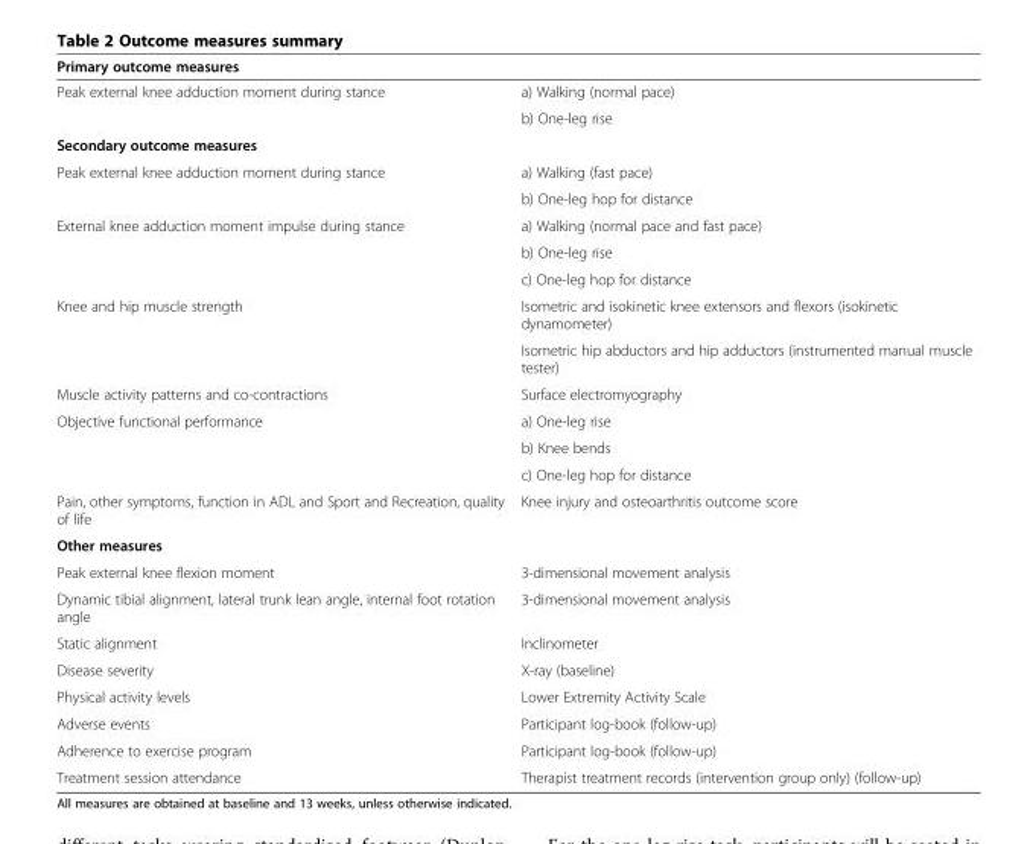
<table><thead><tr><td>Primary outcome measures</td><td></td></tr></thead><tbody><tr><td rowspan="2">Peak external knee adduction moment during stance</td><td>a) Walking (normal pace)</td></tr><tr><td>b) One-leg rise</td></tr><tr><td colspan="2">Secondary outcome measures</td></tr><tr><td rowspan="2">Peak external knee adduction moment during stance</td><td>a) Walking (fast pace)</td></tr><tr><td>b) One-leg hop for distance</td></tr><tr><td rowspan="3">External knee adduction moment impulse during stance</td><td>a) Walking (normal pace and fast pace)</td></tr><tr><td>b) One-leg rise</td></tr><tr><td>c) One-leg hop for distance</td></tr><tr><td rowspan="2">Knee and hip muscle strength</td><td>Isometric and isokinetic knee extensors and flexors (isokinetic dynamometer)</td></tr><tr><td>Isometric hip abductors and hip adductors (instrumented manual muscle tester)</td></tr><tr><td>Muscle activity patterns and co-contractions</td><td>Surface electromyography</td></tr><tr><td rowspan="3">Objective functional performance</td><td>a) One-leg rise</td></tr><tr><td>b) Knee bends</td></tr><tr><td>c) One-leg hop for distance</td></tr><tr><td>Pain, other symptoms, function in ADL and Sport and Recreation, quality of life</td><td>Knee injury and osteoarthritis outcome score</td></tr><tr><td colspan="2">Other measures</td></tr><tr><td>Peak external knee flexion moment</td><td>3-dimensional movement analysis</td></tr><tr><td>Dynamic tibial alignment, lateral trunk lean angle, internal foot rotation angle</td><td>3-dimensional movement analysis</td></tr><tr><td>Static alignment</td><td>Inclinometer</td></tr><tr><td>Disease severity</td><td>X-ray (baseline)</td></tr><tr><td>Physical activity levels</td><td>Lower Extremity Activity Scale</td></tr><tr><td>Adverse events</td><td>Participant log-book (follow-up)</td></tr><tr><td>Adherence to exercise program</td><td>Participant log-book (follow-up)</td></tr><tr><td>Treatment session attendance</td><td>Therapist treatment records (intervention group only) (follow-up)</td></tr></tbody></table>